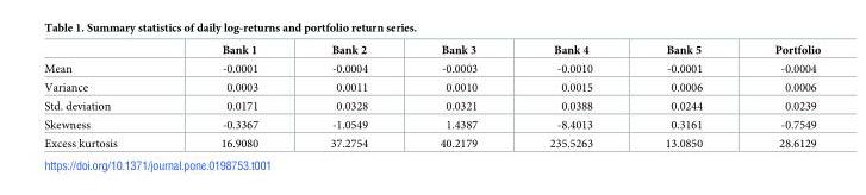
<table><thead><tr><td></td><td>Bank 1</td><td>Bank 2</td><td>Bank 3</td><td>Bank 4</td><td>Bank 5</td><td>Portfolio</td></tr></thead><tbody><tr><td>Mean</td><td>-0.0001</td><td>-0.0004</td><td>-0.0003</td><td>-0.0010</td><td>-0.0001</td><td>-0.0004</td></tr><tr><td>Variance</td><td>0.0003</td><td>0.0011</td><td>0.0010</td><td>0.0015</td><td>0.0006</td><td>0.0006</td></tr><tr><td>Std. deviation</td><td>0.0171</td><td>0.0328</td><td>0.0321</td><td>0.0388</td><td>0.0244</td><td>0.0239</td></tr><tr><td>Skewness</td><td>-0.3367</td><td>-1.0549</td><td>1.4387</td><td>-8.4013</td><td>0.3161</td><td>-0.7549</td></tr><tr><td>Excess kurtosis</td><td>16.9080</td><td>37.2754</td><td>40.2179</td><td>235.5263</td><td>13.0850</td><td>28.6129</td></tr></tbody></table>